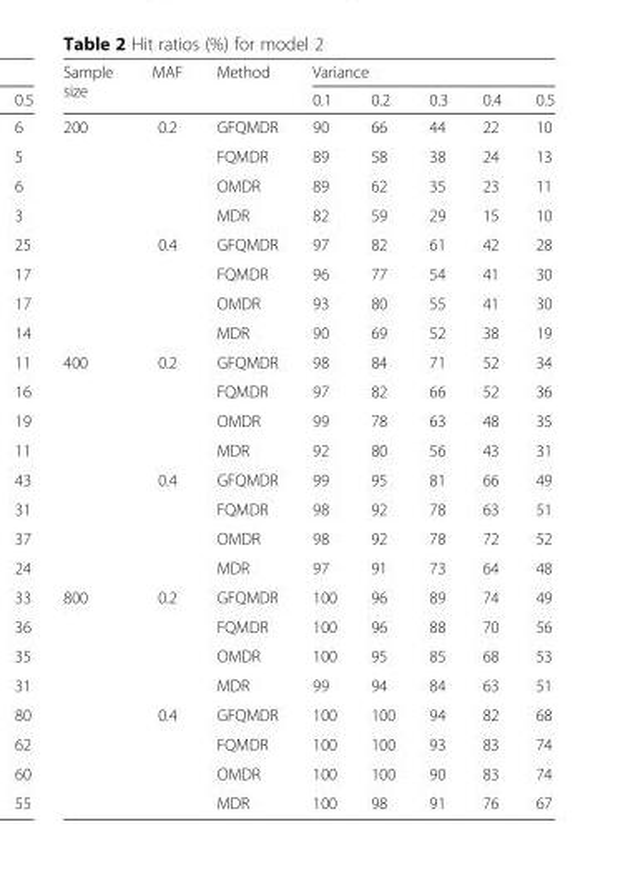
<table><thead><tr><td rowspan="2">Sample size</td><td rowspan="2">MAF</td><td rowspan="2">Method</td><td colspan="5">Variance</td></tr><tr><td>0.1</td><td>0.2</td><td>0.3</td><td>0.4</td><td>0.5</td></tr></thead><tbody><tr><td rowspan="8">200</td><td rowspan="4">0.2</td><td>GFQMDR</td><td>90</td><td>66</td><td>44</td><td>22</td><td>10</td></tr><tr><td>FQMDR</td><td>89</td><td>58</td><td>38</td><td>24</td><td>13</td></tr><tr><td>OMDR</td><td>89</td><td>62</td><td>35</td><td>23</td><td>11</td></tr><tr><td>MDR</td><td>82</td><td>59</td><td>29</td><td>15</td><td>10</td></tr><tr><td rowspan="4">0.4</td><td>GFQMDR</td><td>97</td><td>82</td><td>61</td><td>42</td><td>28</td></tr><tr><td>FQMDR</td><td>96</td><td>77</td><td>54</td><td>41</td><td>30</td></tr><tr><td>OMDR</td><td>93</td><td>80</td><td>55</td><td>41</td><td>30</td></tr><tr><td>MDR</td><td>90</td><td>69</td><td>52</td><td>38</td><td>19</td></tr><tr><td rowspan="8">400</td><td rowspan="4">0.2</td><td>GFQMDR</td><td>98</td><td>84</td><td>71</td><td>52</td><td>34</td></tr><tr><td>FQMDR</td><td>97</td><td>82</td><td>66</td><td>52</td><td>36</td></tr><tr><td>OMDR</td><td>99</td><td>78</td><td>63</td><td>48</td><td>35</td></tr><tr><td>MDR</td><td>92</td><td>80</td><td>56</td><td>43</td><td>31</td></tr><tr><td rowspan="4">0.4</td><td>GFQMDR</td><td>99</td><td>95</td><td>81</td><td>66</td><td>49</td></tr><tr><td>FQMDR</td><td>98</td><td>92</td><td>78</td><td>63</td><td>51</td></tr><tr><td>OMDR</td><td>98</td><td>92</td><td>78</td><td>72</td><td>52</td></tr><tr><td>MDR</td><td>97</td><td>91</td><td>73</td><td>64</td><td>48</td></tr><tr><td rowspan="8">800</td><td rowspan="4">0.2</td><td>GFQMDR</td><td>100</td><td>96</td><td>89</td><td>74</td><td>49</td></tr><tr><td>FQMDR</td><td>100</td><td>96</td><td>88</td><td>70</td><td>56</td></tr><tr><td>OMDR</td><td>100</td><td>95</td><td>85</td><td>68</td><td>53</td></tr><tr><td>MDR</td><td>99</td><td>94</td><td>84</td><td>63</td><td>51</td></tr><tr><td rowspan="4">0.4</td><td>GFQMDR</td><td>100</td><td>100</td><td>94</td><td>82</td><td>68</td></tr><tr><td>FQMDR</td><td>100</td><td>100</td><td>93</td><td>83</td><td>74</td></tr><tr><td>OMDR</td><td>100</td><td>100</td><td>90</td><td>83</td><td>74</td></tr><tr><td>MDR</td><td>100</td><td>98</td><td>91</td><td>76</td><td>67</td></tr></tbody></table>